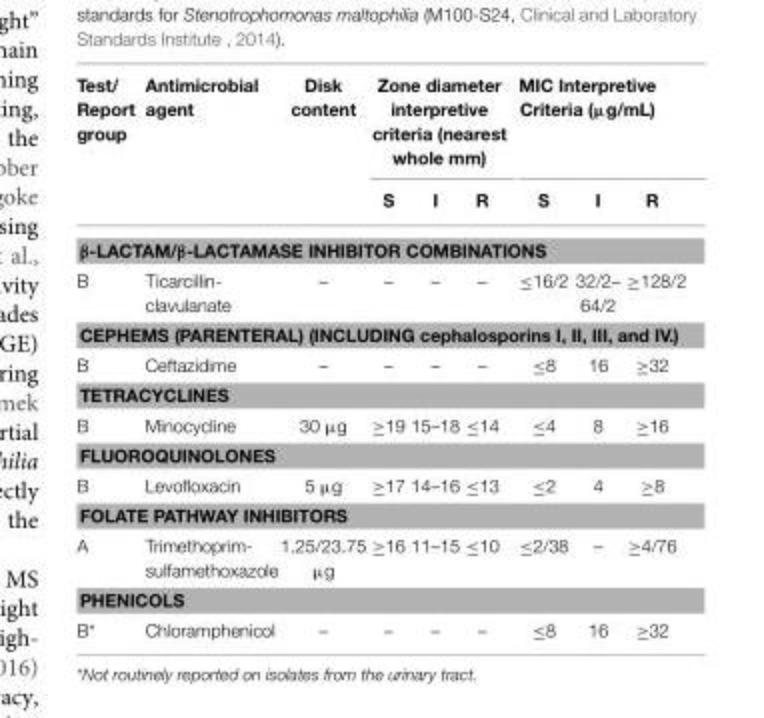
<table><thead><tr><td rowspan="2">Test/ Report group</td><td rowspan="2">Antimicrobial agent</td><td rowspan="2">Disk content</td><td colspan="3">Zone diameter interpretive criteria (nearest whole mm)</td><td colspan="3">MIC Interpretive Criteria (µg/mL)</td></tr><tr><td>S</td><td>I</td><td>R</td><td>S</td><td>I</td><td>R</td></tr></thead><tbody><tr><td colspan="9">β-LACTAM/β-LACTAMASE INHIBITOR COMBINATIONS</td></tr><tr><td>B</td><td>Ticarcillin- clavulanate</td><td>–</td><td>–</td><td>–</td><td>–</td><td>≤16/2</td><td>32/2– 64/2</td><td>≥128/2</td></tr><tr><td colspan="9">CEPHEMS (PARENTERAL) (INCLUDING cephalosporins I, II, III, and IV.)</td></tr><tr><td>B</td><td>Ceftazidime</td><td>–</td><td>–</td><td>–</td><td>–</td><td>≤8</td><td>16</td><td>≥32</td></tr><tr><td colspan="9">TETRACYCLINES</td></tr><tr><td>B</td><td>Minocycline</td><td>30 µg</td><td>≥19</td><td>15–18</td><td>≤14</td><td>≤4</td><td>8</td><td>≥16</td></tr><tr><td colspan="9">FLUOROQUINOLONES</td></tr><tr><td>B</td><td>Levofloxacin</td><td>5 µg</td><td>≥17</td><td>14–16</td><td>≤13</td><td>≤2</td><td>4</td><td>≥8</td></tr><tr><td colspan="9">FOLATE PATHWAY INHIBITORS</td></tr><tr><td>A</td><td>Trimethoprim- sulfamethoxazole</td><td>1.25/23.75 µg</td><td>≥16</td><td>11–15</td><td>≤10</td><td>≤2/38</td><td>–</td><td>≥4/76</td></tr><tr><td colspan="9">PHENICOLS</td></tr><tr><td>B*</td><td>Chloramphenicol</td><td>–</td><td>–</td><td>–</td><td>–</td><td>≤8</td><td>16</td><td>≥32</td></tr></tbody></table>